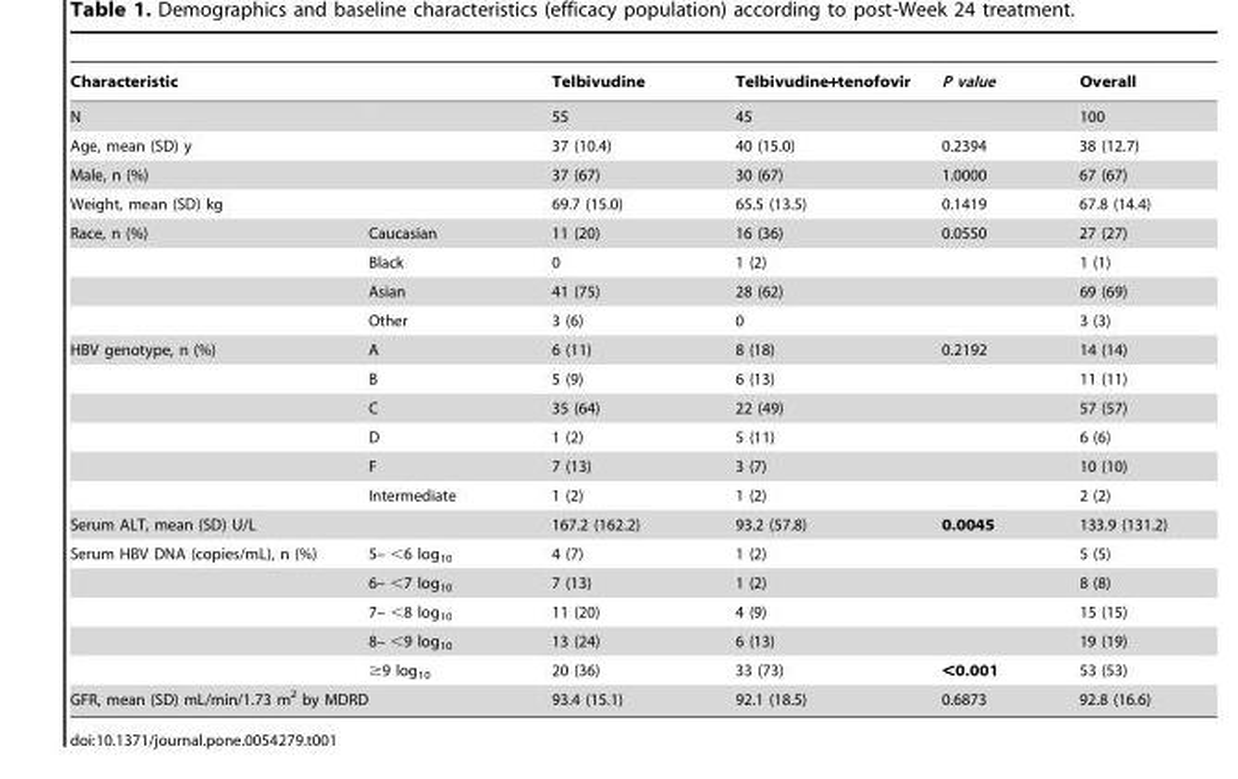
<table><thead><tr><td>Characteristic</td><td></td><td>Telbivudine</td><td>Telbivudine+tenofovir</td><td>P value</td><td>Overall</td></tr></thead><tbody><tr><td>N</td><td></td><td>55</td><td>45</td><td></td><td>100</td></tr><tr><td>Age, mean (SD) y</td><td></td><td>37 (10.4)</td><td>40 (15.0)</td><td>0.2394</td><td>38 (12.7)</td></tr><tr><td>Male, n (%)</td><td></td><td>37 (67)</td><td>30 (67)</td><td>1.0000</td><td>67 (67)</td></tr><tr><td>Weight, mean (SD) kg</td><td></td><td>69.7 (15.0)</td><td>65.5 (13.5)</td><td>0.1419</td><td>67.8 (14.4)</td></tr><tr><td rowspan="4">Race, n (%)</td><td>Caucasian</td><td>11 (20)</td><td>16 (36)</td><td>0.0550</td><td>27 (27)</td></tr><tr><td>Black</td><td>0</td><td>1 (2)</td><td></td><td>1 (1)</td></tr><tr><td>Asian</td><td>41 (75)</td><td>28 (62)</td><td></td><td>69 (69)</td></tr><tr><td>Other</td><td>3 (6)</td><td>0</td><td></td><td>3 (3)</td></tr><tr><td rowspan="6">HBV genotype, n (%)</td><td>A</td><td>6 (11)</td><td>8 (18)</td><td>0.2192</td><td>14 (14)</td></tr><tr><td>B</td><td>5 (9)</td><td>6 (13)</td><td></td><td>11 (11)</td></tr><tr><td>C</td><td>35 (64)</td><td>22 (49)</td><td></td><td>57 (57)</td></tr><tr><td>D</td><td>1 (2)</td><td>5 (11)</td><td></td><td>6 (6)</td></tr><tr><td>F</td><td>7 (13)</td><td>3 (7)</td><td></td><td>10 (10)</td></tr><tr><td>Intermediate</td><td>1 (2)</td><td>1 (2)</td><td></td><td>2 (2)</td></tr><tr><td>Serum ALT, mean (SD) U/L</td><td></td><td>167.2 (162.2)</td><td>93.2 (57.8)</td><td>0.0045</td><td>133.9 (131.2)</td></tr><tr><td rowspan="5">Serum HBV DNA (copies/mL), n (%)</td><td>5– &lt;6 log<sub>10</sub></td><td>4 (7)</td><td>1 (2)</td><td></td><td>5 (5)</td></tr><tr><td>6– &lt;7 log<sub>10</sub></td><td>7 (13)</td><td>1 (2)</td><td></td><td>8 (8)</td></tr><tr><td>7– &lt;8 log<sub>10</sub></td><td>11 (20)</td><td>4 (9)</td><td></td><td>15 (15)</td></tr><tr><td>8– &lt;9 log<sub>10</sub></td><td>13 (24)</td><td>6 (13)</td><td></td><td>19 (19)</td></tr><tr><td>≥9 log<sub>10</sub></td><td>20 (36)</td><td>33 (73)</td><td>&lt;0.001</td><td>53 (53)</td></tr><tr><td>GFR, mean (SD) mL/min/1.73 m<sup>2</sup> by MDRD</td><td></td><td>93.4 (15.1)</td><td>92.1 (18.5)</td><td>0.6873</td><td>92.8 (16.6)</td></tr></tbody></table>